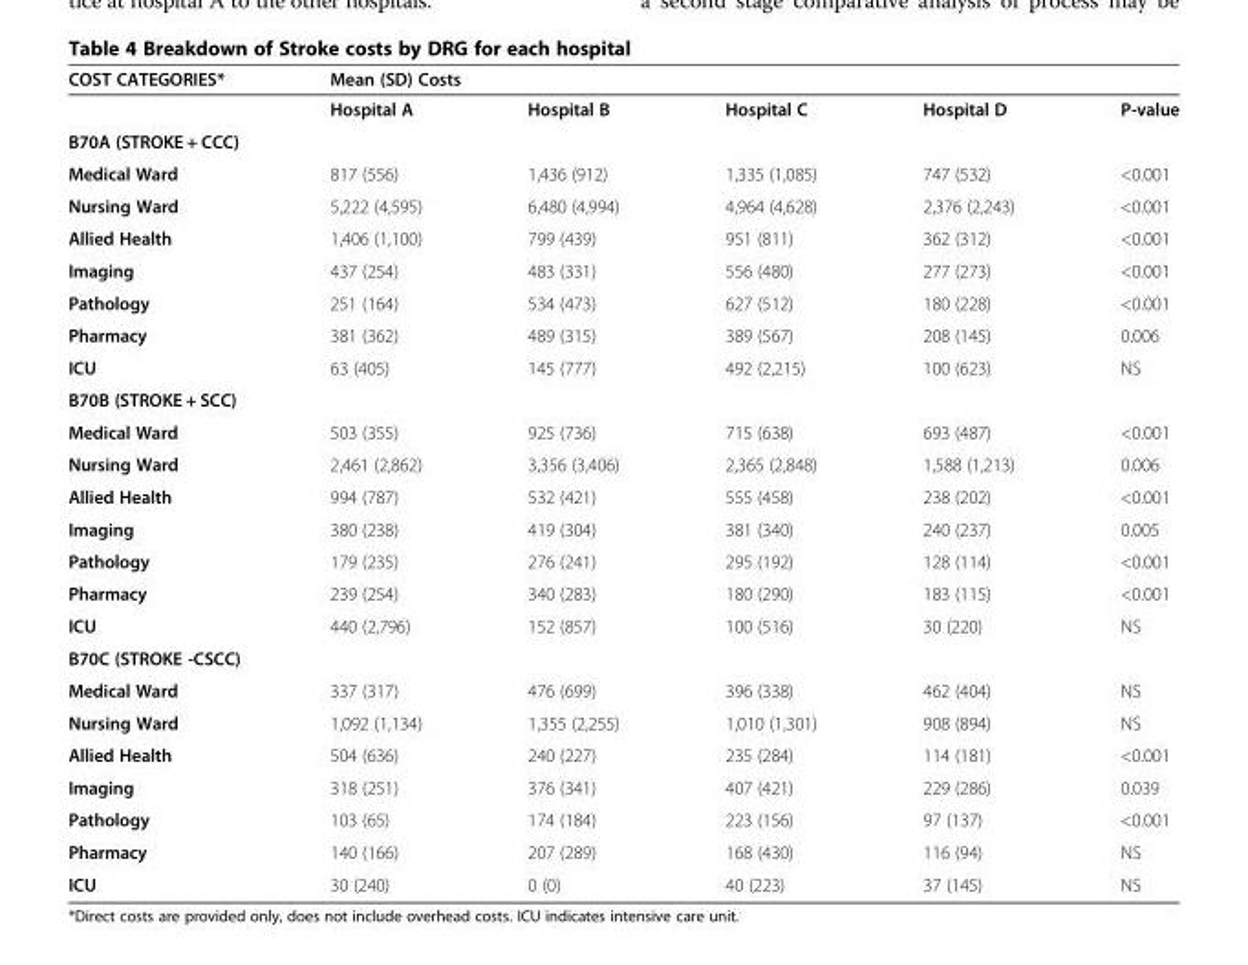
<table><thead><tr><td rowspan="2">COST CATEGORIES*</td><td colspan="4">Mean (SD) Costs</td><td rowspan="2">P-value</td></tr><tr><td>Hospital A</td><td>Hospital B</td><td>Hospital C</td><td>Hospital D</td></tr></thead><tbody><tr><td colspan="6">B70A (STROKE + CCC)</td></tr><tr><td>Medical Ward</td><td>817 (556)</td><td>1,436 (912)</td><td>1,335 (1,085)</td><td>747 (532)</td><td>&lt;0.001</td></tr><tr><td>Nursing Ward</td><td>5,222 (4,595)</td><td>6,480 (4,994)</td><td>4,964 (4,628)</td><td>2,376 (2,243)</td><td>&lt;0.001</td></tr><tr><td>Allied Health</td><td>1,406 (1,100)</td><td>799 (439)</td><td>951 (811)</td><td>362 (312)</td><td>&lt;0.001</td></tr><tr><td>Imaging</td><td>437 (254)</td><td>483 (331)</td><td>556 (480)</td><td>277 (273)</td><td>&lt;0.001</td></tr><tr><td>Pathology</td><td>251 (164)</td><td>534 (473)</td><td>627 (512)</td><td>180 (228)</td><td>&lt;0.001</td></tr><tr><td>Pharmacy</td><td>381 (362)</td><td>489 (315)</td><td>389 (567)</td><td>208 (145)</td><td>0.006</td></tr><tr><td>ICU</td><td>63 (405)</td><td>145 (777)</td><td>492 (2,215)</td><td>100 (623)</td><td>NS</td></tr><tr><td colspan="6">B70B (STROKE + SCC)</td></tr><tr><td>Medical Ward</td><td>503 (355)</td><td>925 (736)</td><td>715 (638)</td><td>693 (487)</td><td>&lt;0.001</td></tr><tr><td>Nursing Ward</td><td>2,461 (2,862)</td><td>3,356 (3,406)</td><td>2,365 (2,848)</td><td>1,588 (1,213)</td><td>0.006</td></tr><tr><td>Allied Health</td><td>994 (787)</td><td>532 (421)</td><td>555 (458)</td><td>238 (202)</td><td>&lt;0.001</td></tr><tr><td>Imaging</td><td>380 (238)</td><td>419 (304)</td><td>381 (340)</td><td>240 (237)</td><td>0.005</td></tr><tr><td>Pathology</td><td>179 (235)</td><td>276 (241)</td><td>295 (192)</td><td>128 (114)</td><td>&lt;0.001</td></tr><tr><td>Pharmacy</td><td>239 (254)</td><td>340 (283)</td><td>180 (290)</td><td>183 (115)</td><td>&lt;0.001</td></tr><tr><td>ICU</td><td>440 (2,796)</td><td>152 (857)</td><td>100 (516)</td><td>30 (220)</td><td>NS</td></tr><tr><td colspan="6">B70C (STROKE -CSCC)</td></tr><tr><td>Medical Ward</td><td>337 (317)</td><td>476 (699)</td><td>396 (338)</td><td>462 (404)</td><td>NS</td></tr><tr><td>Nursing Ward</td><td>1,092 (1,134)</td><td>1,355 (2,255)</td><td>1,010 (1,301)</td><td>908 (894)</td><td>NS</td></tr><tr><td>Allied Health</td><td>504 (636)</td><td>240 (227)</td><td>235 (284)</td><td>114 (181)</td><td>&lt;0.001</td></tr><tr><td>Imaging</td><td>318 (251)</td><td>376 (341)</td><td>407 (421)</td><td>229 (286)</td><td>0.039</td></tr><tr><td>Pathology</td><td>103 (65)</td><td>174 (184)</td><td>223 (156)</td><td>97 (137)</td><td>&lt;0.001</td></tr><tr><td>Pharmacy</td><td>140 (166)</td><td>207 (289)</td><td>168 (430)</td><td>116 (94)</td><td>NS</td></tr><tr><td>ICU</td><td>30 (240)</td><td>0 (0)</td><td>40 (223)</td><td>37 (145)</td><td>NS</td></tr></tbody></table>